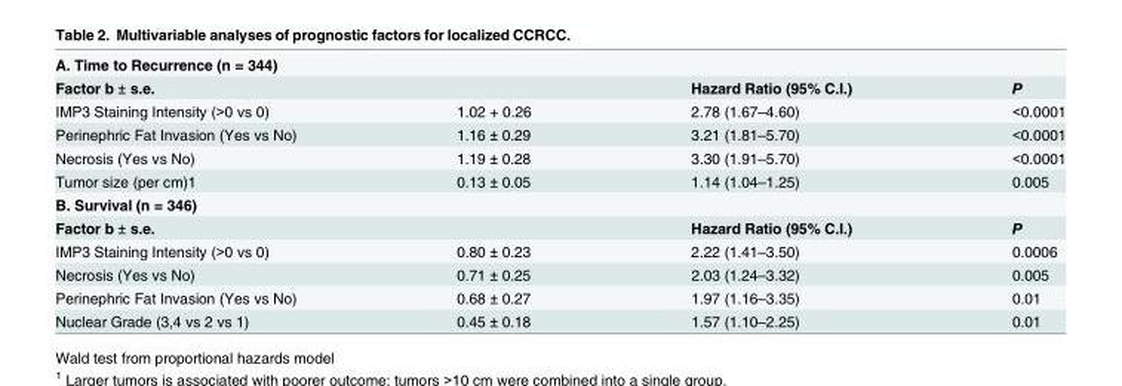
<table><tbody><tr><td colspan="4">A. Time to Recurrence (n = 344)</td></tr><tr><td>Factor b ± s.e.</td><td></td><td>Hazard Ratio (95% C.I.)</td><td>P</td></tr><tr><td>IMP3 Staining Intensity (&gt;0 vs 0)</td><td>1.02 + 0.26</td><td>2.78 (1.67–4.60)</td><td>&lt;0.0001</td></tr><tr><td>Perinephric Fat Invasion (Yes vs No)</td><td>1.16 ± 0.29</td><td>3.21 (1.81–5.70)</td><td>&lt;0.0001</td></tr><tr><td>Necrosis (Yes vs No)</td><td>1.19 ± 0.28</td><td>3.30 (1.91–5.70)</td><td>&lt;0.0001</td></tr><tr><td>Tumor size (per cm)1</td><td>0.13 ± 0.05</td><td>1.14 (1.04–1.25)</td><td>0.005</td></tr><tr><td colspan="4">B. Survival (n = 346)</td></tr><tr><td>Factor b ± s.e.</td><td></td><td>Hazard Ratio (95% C.I.)</td><td>P</td></tr><tr><td>IMP3 Staining Intensity (&gt;0 vs 0)</td><td>0.80 ± 0.23</td><td>2.22 (1.41–3.50)</td><td>0.0006</td></tr><tr><td>Necrosis (Yes vs No)</td><td>0.71 ± 0.25</td><td>2.03 (1.24–3.32)</td><td>0.005</td></tr><tr><td>Perinephric Fat Invasion (Yes vs No)</td><td>0.68 ± 0.27</td><td>1.97 (1.16–3.35)</td><td>0.01</td></tr><tr><td>Nuclear Grade (3,4 vs 2 vs 1)</td><td>0.45 ± 0.18</td><td>1.57 (1.10–2.25)</td><td>0.01</td></tr></tbody></table>